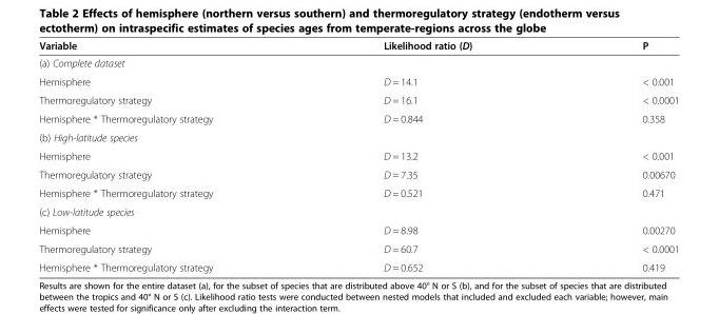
<table><thead><tr><td>Variable</td><td>Likelihood ratio (D)</td><td>P</td></tr></thead><tbody><tr><td colspan="3">(a) Complete dataset</td></tr><tr><td>Hemisphere</td><td>D = 14.1</td><td>&lt; 0.001</td></tr><tr><td>Thermoregulatory strategy</td><td>D = 16.1</td><td>&lt; 0.0001</td></tr><tr><td>Hemisphere * Thermoregulatory strategy</td><td>D = 0.844</td><td>0.358</td></tr><tr><td colspan="3">(b) High-latitude species</td></tr><tr><td>Hemisphere</td><td>D = 13.2</td><td>&lt; 0.001</td></tr><tr><td>Thermoregulatory strategy</td><td>D = 7.35</td><td>0.00670</td></tr><tr><td>Hemisphere * Thermoregulatory strategy</td><td>D = 0.521</td><td>0.471</td></tr><tr><td colspan="3">(c) Low-latitude species</td></tr><tr><td>Hemisphere</td><td>D = 8.98</td><td>0.00270</td></tr><tr><td>Thermoregulatory strategy</td><td>D = 60.7</td><td>&lt; 0.0001</td></tr><tr><td>Hemisphere * Thermoregulatory strategy</td><td>D = 0.652</td><td>0.419</td></tr></tbody></table>